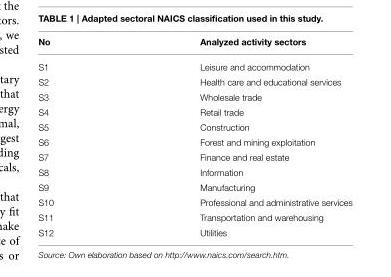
<table><thead><tr><td>No</td><td>Analyzed activity sectors</td></tr></thead><tbody><tr><td>S1</td><td>Leisure and accommodation</td></tr><tr><td>S2</td><td>Health care and educational services</td></tr><tr><td>S3</td><td>Wholesale trade</td></tr><tr><td>S4</td><td>Retail trade</td></tr><tr><td>S5</td><td>Construction</td></tr><tr><td>S6</td><td>Forest and mining exploitation</td></tr><tr><td>S7</td><td>Finance and real estate</td></tr><tr><td>S8</td><td>Information</td></tr><tr><td>S9</td><td>Manufacturing</td></tr><tr><td>S10</td><td>Professional and administrative services</td></tr><tr><td>S11</td><td>Transportation and warehousing</td></tr><tr><td>S12</td><td>Utilities</td></tr></tbody></table>